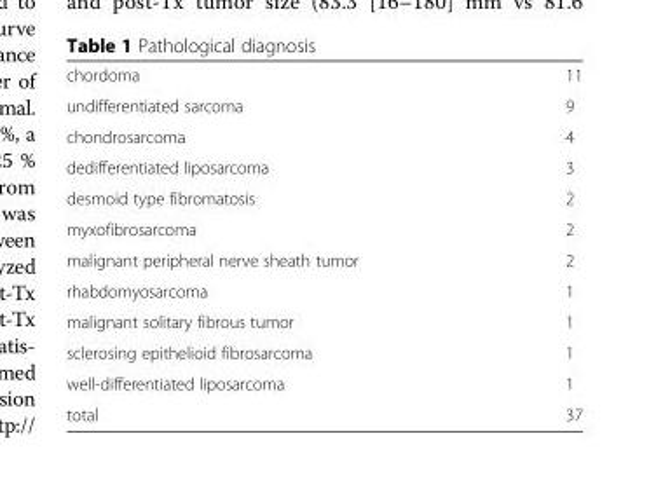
<table><tbody><tr><td>chordoma</td><td>11</td></tr><tr><td>undifferentiated sarcoma</td><td>9</td></tr><tr><td>chondrosarcoma</td><td>4</td></tr><tr><td>dedifferentiated liposarcoma</td><td>3</td></tr><tr><td>desmoid type fibromatosis</td><td>2</td></tr><tr><td>myxofibrosarcoma</td><td>2</td></tr><tr><td>malignant peripheral nerve sheath tumor</td><td>2</td></tr><tr><td>rhabdomyosarcoma</td><td>1</td></tr><tr><td>malignant solitary fibrous tumor</td><td>1</td></tr><tr><td>sclerosing epithelioid fibrosarcoma</td><td>1</td></tr><tr><td>well-differentiated liposarcoma</td><td>1</td></tr><tr><td>total</td><td>37</td></tr></tbody></table>